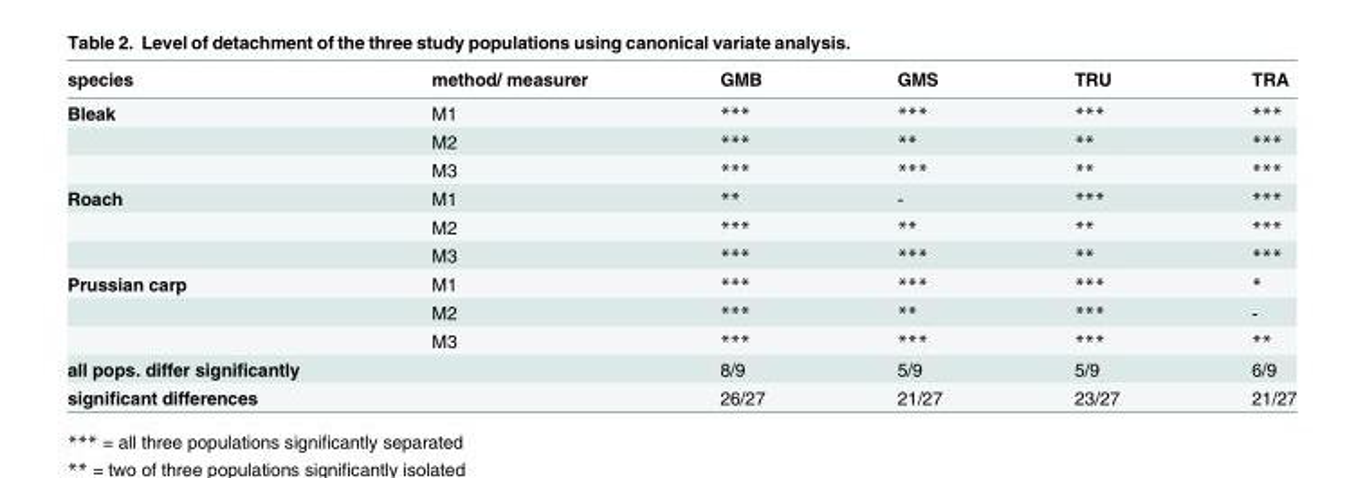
<table><thead><tr><td>species</td><td>method/ measurer</td><td>GMB</td><td>GMS</td><td>TRU</td><td>TRA</td></tr></thead><tbody><tr><td rowspan="3">Bleak</td><td>M1</td><td>***</td><td>***</td><td>***</td><td>***</td></tr><tr><td>M2</td><td>***</td><td>**</td><td>**</td><td>***</td></tr><tr><td>M3</td><td>***</td><td>***</td><td>**</td><td>***</td></tr><tr><td rowspan="3">Roach</td><td>M1</td><td>**</td><td>-</td><td>***</td><td>***</td></tr><tr><td>M2</td><td>***</td><td>**</td><td>**</td><td>***</td></tr><tr><td>M3</td><td>***</td><td>***</td><td>**</td><td>***</td></tr><tr><td rowspan="3">Prussian carp</td><td>M1</td><td>***</td><td>***</td><td>***</td><td>*</td></tr><tr><td>M2</td><td>***</td><td>**</td><td>***</td><td>-</td></tr><tr><td>M3</td><td>***</td><td>***</td><td>***</td><td>**</td></tr><tr><td>all pops. differ significantly</td><td></td><td>8/9</td><td>5/9</td><td>5/9</td><td>6/9</td></tr><tr><td>significant differences</td><td></td><td>26/27</td><td>21/27</td><td>23/27</td><td>21/27</td></tr></tbody></table>